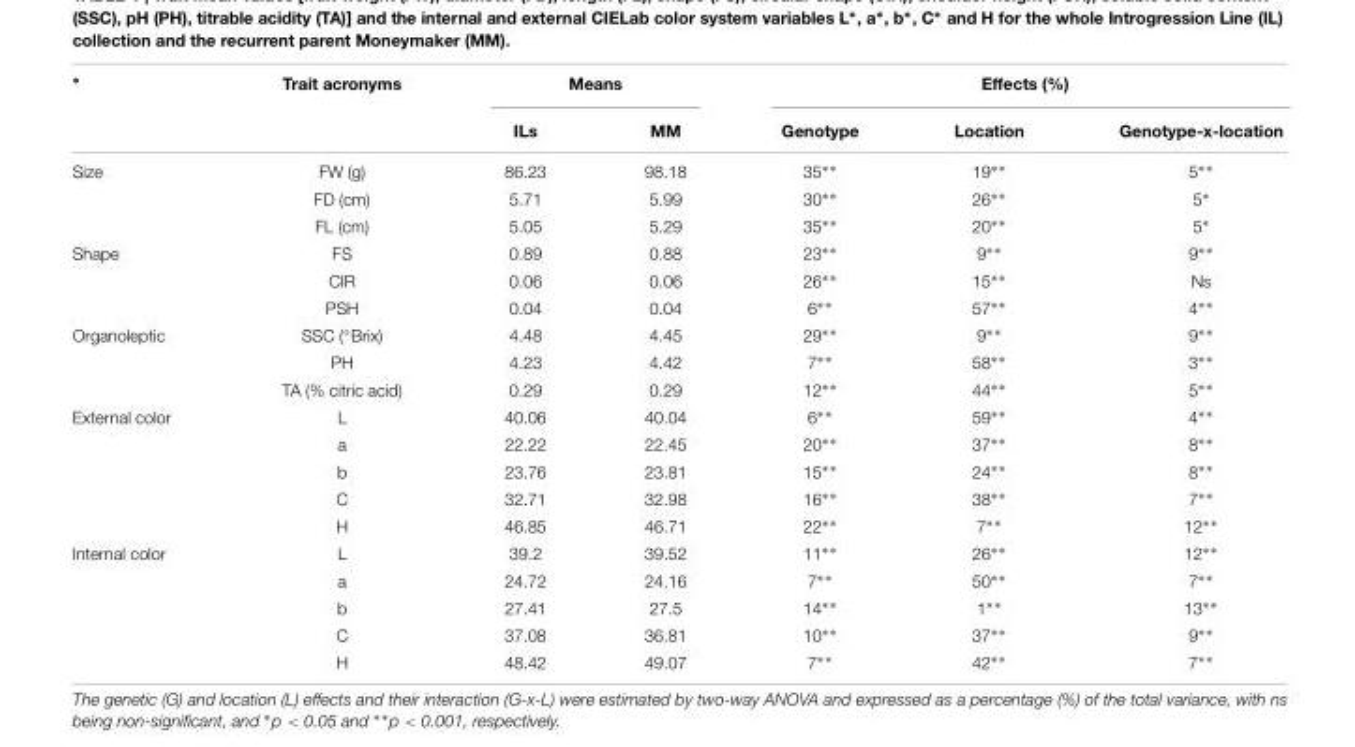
<table><thead><tr><td rowspan="2">∗</td><td rowspan="2">Trait acronyms</td><td colspan="2">Means</td><td colspan="3">Effects (%)</td></tr><tr><td>ILs</td><td>MM</td><td>Genotype</td><td>Location</td><td>Genotype-x-location</td></tr></thead><tbody><tr><td rowspan="3">Size</td><td>FW (g)</td><td>86.23</td><td>98.18</td><td>35∗∗</td><td>19∗∗</td><td>5∗∗</td></tr><tr><td>FD (cm)</td><td>5.71</td><td>5.99</td><td>30∗∗</td><td>26∗∗</td><td>5∗</td></tr><tr><td>FL (cm)</td><td>5.05</td><td>5.29</td><td>35∗∗</td><td>20∗∗</td><td>5∗</td></tr><tr><td rowspan="3">Shape</td><td>FS</td><td>0.89</td><td>0.88</td><td>23∗∗</td><td>9∗∗</td><td>9∗∗</td></tr><tr><td>CIR</td><td>0.06</td><td>0.06</td><td>26∗∗</td><td>15∗∗</td><td>Ns</td></tr><tr><td>PSH</td><td>0.04</td><td>0.04</td><td>6∗∗</td><td>57∗∗</td><td>4∗∗</td></tr><tr><td rowspan="3">Organoleptic</td><td>SSC (◦Brix)</td><td>4.48</td><td>4.45</td><td>29∗∗</td><td>9∗∗</td><td>9∗∗</td></tr><tr><td>PH</td><td>4.23</td><td>4.42</td><td>7∗∗</td><td>58∗∗</td><td>3∗∗</td></tr><tr><td>TA (% citric acid)</td><td>0.29</td><td>0.29</td><td>12∗∗</td><td>44∗∗</td><td>5∗∗</td></tr><tr><td rowspan="5">External color</td><td>L</td><td>40.06</td><td>40.04</td><td>6∗∗</td><td>59∗∗</td><td>4∗∗</td></tr><tr><td>a</td><td>22.22</td><td>22.45</td><td>20∗∗</td><td>37∗∗</td><td>8∗∗</td></tr><tr><td>b</td><td>23.76</td><td>23.81</td><td>15∗∗</td><td>24∗∗</td><td>8∗∗</td></tr><tr><td>C</td><td>32.71</td><td>32.98</td><td>16∗∗</td><td>38∗∗</td><td>7∗∗</td></tr><tr><td>H</td><td>46.85</td><td>46.71</td><td>22∗∗</td><td>7∗∗</td><td>12∗∗</td></tr><tr><td rowspan="5">Internal color</td><td>L</td><td>39.2</td><td>39.52</td><td>11∗∗</td><td>26∗∗</td><td>12∗∗</td></tr><tr><td>a</td><td>24.72</td><td>24.16</td><td>7∗∗</td><td>50∗∗</td><td>7∗∗</td></tr><tr><td>b</td><td>27.41</td><td>27.5</td><td>14∗∗</td><td>1∗∗</td><td>13∗∗</td></tr><tr><td>C</td><td>37.08</td><td>36.81</td><td>10∗∗</td><td>37∗∗</td><td>9∗∗</td></tr><tr><td>H</td><td>48.42</td><td>49.07</td><td>7∗∗</td><td>42∗∗</td><td>7∗∗</td></tr></tbody></table>